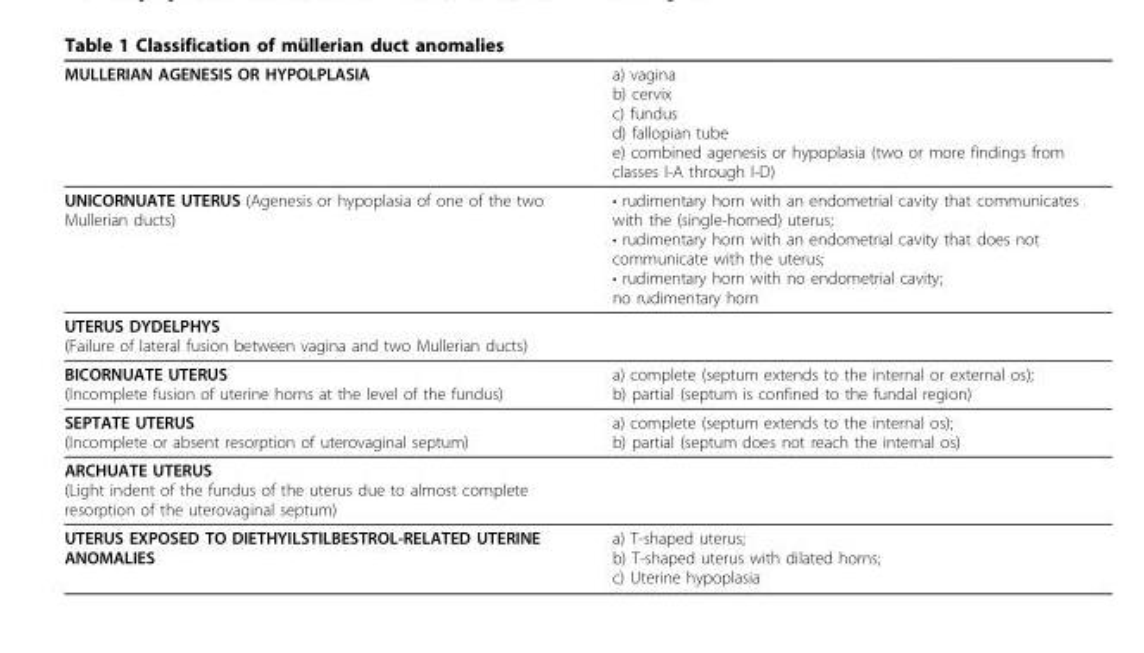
<table><thead><tr><td>MULLERIAN AGENESIS OR HYPOLPLASIA</td><td>a) vagina b) cervix c) fundus d) fallopian tube e) combined agenesis or hypoplasia (two or more findings from classes I-A through I-D)</td></tr></thead><tbody><tr><td>UNICORNUATE UTERUS (Agenesis or hypoplasia of one of the two Mullerian ducts)</td><td>• rudimentary horn with an endometrial cavity that communicates with the (single-horned) uterus; • rudimentary horn with an endometrial cavity that does not communicate with the uterus; • rudimentary horn with no endometrial cavity; no rudimentary horn</td></tr><tr><td colspan="2">UTERUS DYDELPHYS (Failure of lateral fusion between vagina and two Mullerian ducts)</td></tr><tr><td>BICORNUATE UTERUS (Incomplete fusion of uterine horns at the level of the fundus)</td><td>a) complete (septum extends to the internal or external os); b) partial (septum is confined to the fundal region)</td></tr><tr><td>SEPTATE UTERUS (Incomplete or absent resorption of uterovaginal septum)</td><td>a) complete (septum extends to the internal os); b) partial (septum does not reach the internal os)</td></tr><tr><td colspan="2">ARCHUATE UTERUS (Light indent of the fundus of the uterus due to almost complete resorption of the uterovaginal septum)</td></tr><tr><td>UTERUS EXPOSED TO DIETHYILSTILBESTROL-RELATED UTERINE ANOMALIES</td><td>a) T-shaped uterus; b) T-shaped uterus with dilated horns; c) Uterine hypoplasia</td></tr></tbody></table>